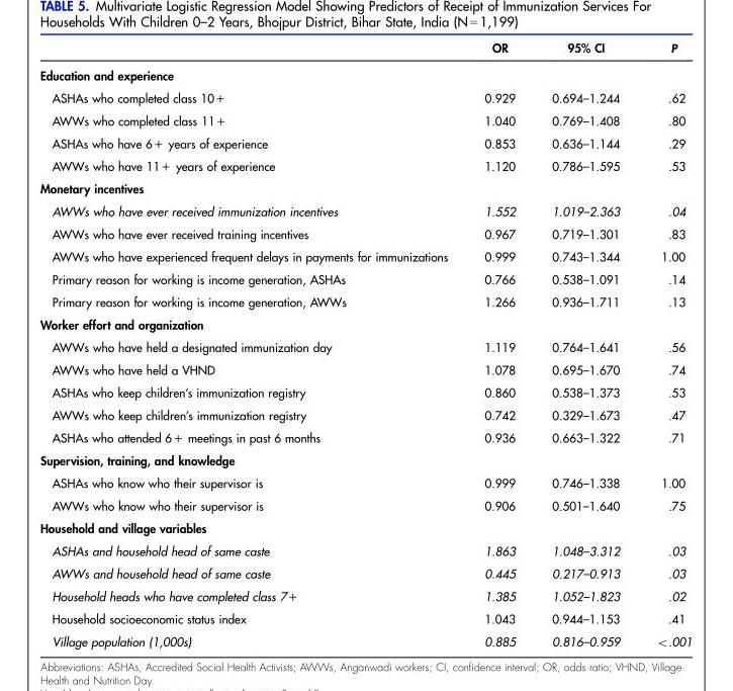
<table><thead><tr><td></td><td>OR</td><td>95% CI</td><td>P</td></tr></thead><tbody><tr><td colspan="4">Education and experience</td></tr><tr><td>ASHAs who completed class 10+</td><td>0.929</td><td>0.694–1.244</td><td>.62</td></tr><tr><td>AWWs who completed class 11+</td><td>1.040</td><td>0.769–1.408</td><td>.80</td></tr><tr><td>ASHAs who have 6+ years of experience</td><td>0.853</td><td>0.636–1.144</td><td>.29</td></tr><tr><td>AWWs who have 11+ years of experience</td><td>1.120</td><td>0.786–1.595</td><td>.53</td></tr><tr><td colspan="4">Monetary incentives</td></tr><tr><td>AWWs who have ever received immunization incentives</td><td>1.552</td><td>1.019–2.363</td><td>.04</td></tr><tr><td>AWWs who have ever received training incentives</td><td>0.967</td><td>0.719–1.301</td><td>.83</td></tr><tr><td>AWWs who have experienced frequent delays in payments for immunizations</td><td>0.999</td><td>0.743–1.344</td><td>1.00</td></tr><tr><td>Primary reason for working is income generation, ASHAs</td><td>0.766</td><td>0.538–1.091</td><td>.14</td></tr><tr><td>Primary reason for working is income generation, AWWs</td><td>1.266</td><td>0.936–1.711</td><td>.13</td></tr><tr><td colspan="4">Worker effort and organization</td></tr><tr><td>AWWs who have held a designated immunization day</td><td>1.119</td><td>0.764–1.641</td><td>.56</td></tr><tr><td>AWWs who have held a VHND</td><td>1.078</td><td>0.695–1.670</td><td>.74</td></tr><tr><td>ASHAs who keep children’s immunization registry</td><td>0.860</td><td>0.538–1.373</td><td>.53</td></tr><tr><td>AWWs who keep children’s immunization registry</td><td>0.742</td><td>0.329–1.673</td><td>.47</td></tr><tr><td>ASHAs who attended 6+ meetings in past 6 months</td><td>0.936</td><td>0.663–1.322</td><td>.71</td></tr><tr><td colspan="4">Supervision, training, and knowledge</td></tr><tr><td>ASHAs who know who their supervisor is</td><td>0.999</td><td>0.746–1.338</td><td>1.00</td></tr><tr><td>AWWs who know who their supervisor is</td><td>0.906</td><td>0.501–1.640</td><td>.75</td></tr><tr><td colspan="4">Household and village variables</td></tr><tr><td>ASHAs and household head of same caste</td><td>1.863</td><td>1.048–3.312</td><td>.03</td></tr><tr><td>AWWs and household head of same caste</td><td>0.445</td><td>0.217–0.913</td><td>.03</td></tr><tr><td>Household heads who have completed class 7+</td><td>1.385</td><td>1.052–1.823</td><td>.02</td></tr><tr><td>Household socioeconomic status index</td><td>1.043</td><td>0.944–1.153</td><td>.41</td></tr><tr><td>Village population (1,000s)</td><td>0.885</td><td>0.816–0.959</td><td>&lt;.001</td></tr></tbody></table>